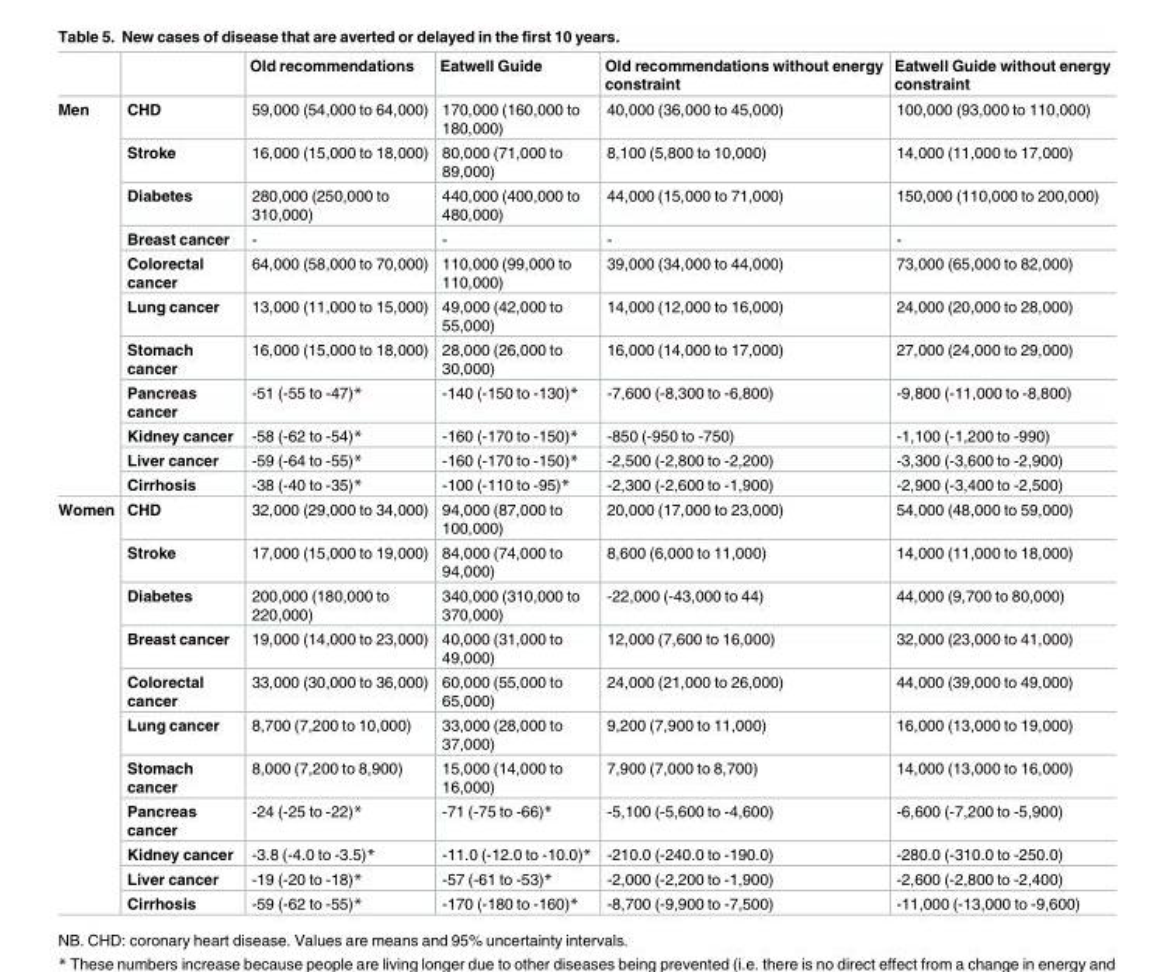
<table><thead><tr><td></td><td></td><td>Old recommendations</td><td>Eatwell Guide</td><td>Old recommendations without energy constraint</td><td>Eatwell Guide without energy constraint</td></tr></thead><tbody><tr><td rowspan="11">Men</td><td>CHD</td><td>59,000 (54,000 to 64,000)</td><td>170,000 (160,000 to 180,000)</td><td>40,000 (36,000 to 45,000)</td><td>100,000 (93,000 to 110,000)</td></tr><tr><td>Stroke</td><td>16,000 (15,000 to 18,000)</td><td>80,000 (71,000 to 89,000)</td><td>8,100 (5,800 to 10,000)</td><td>14,000 (11,000 to 17,000)</td></tr><tr><td>Diabetes</td><td>280,000 (250,000 to 310,000)</td><td>440,000 (400,000 to 480,000)</td><td>44,000 (15,000 to 71,000)</td><td>150,000 (110,000 to 200,000)</td></tr><tr><td>Breast cancer</td><td>-</td><td>-</td><td>-</td><td>-</td></tr><tr><td>Colorectal cancer</td><td>64,000 (58,000 to 70,000)</td><td>110,000 (99,000 to 110,000)</td><td>39,000 (34,000 to 44,000)</td><td>73,000 (65,000 to 82,000)</td></tr><tr><td>Lung cancer</td><td>13,000 (11,000 to 15,000)</td><td>49,000 (42,000 to 55,000)</td><td>14,000 (12,000 to 16,000)</td><td>24,000 (20,000 to 28,000)</td></tr><tr><td>Stomach cancer</td><td>16,000 (15,000 to 18,000)</td><td>28,000 (26,000 to 30,000)</td><td>16,000 (14,000 to 17,000)</td><td>27,000 (24,000 to 29,000)</td></tr><tr><td>Pancreas cancer</td><td>-51 (-55 to -47)*</td><td>-140 (-150 to -130)*</td><td>-7,600 (-8,300 to -6,800)</td><td>-9,800 (-11,000 to -8,800)</td></tr><tr><td>Kidney cancer</td><td>-58 (-62 to -54)*</td><td>-160 (-170 to -150)*</td><td>-850 (-950 to -750)</td><td>-1,100 (-1,200 to -990)</td></tr><tr><td>Liver cancer</td><td>-59 (-64 to -55)*</td><td>-160 (-170 to -150)*</td><td>-2,500 (-2,800 to -2,200)</td><td>-3,300 (-3,600 to -2,900)</td></tr><tr><td>Cirrhosis</td><td>-38 (-40 to -35)*</td><td>-100 (-110 to -95)*</td><td>-2,300 (-2,600 to -1,900)</td><td>-2,900 (-3,400 to -2,500)</td></tr><tr><td rowspan="11">Women</td><td>CHD</td><td>32,000 (29,000 to 34,000)</td><td>94,000 (87,000 to 100,000)</td><td>20,000 (17,000 to 23,000)</td><td>54,000 (48,000 to 59,000)</td></tr><tr><td>Stroke</td><td>17,000 (15,000 to 19,000)</td><td>84,000 (74,000 to 94,000)</td><td>8,600 (6,000 to 11,000)</td><td>14,000 (11,000 to 18,000)</td></tr><tr><td>Diabetes</td><td>200,000 (180,000 to 220,000)</td><td>340,000 (310,000 to 370,000)</td><td>-22,000 (-43,000 to 44)</td><td>44,000 (9,700 to 80,000)</td></tr><tr><td>Breast cancer</td><td>19,000 (14,000 to 23,000)</td><td>40,000 (31,000 to 49,000)</td><td>12,000 (7,600 to 16,000)</td><td>32,000 (23,000 to 41,000)</td></tr><tr><td>Colorectal cancer</td><td>33,000 (30,000 to 36,000)</td><td>60,000 (55,000 to 65,000)</td><td>24,000 (21,000 to 26,000)</td><td>44,000 (39,000 to 49,000)</td></tr><tr><td>Lung cancer</td><td>8,700 (7,200 to 10,000)</td><td>33,000 (28,000 to 37,000)</td><td>9,200 (7,900 to 11,000)</td><td>16,000 (13,000 to 19,000)</td></tr><tr><td>Stomach cancer</td><td>8,000 (7,200 to 8,900)</td><td>15,000 (14,000 to 16,000)</td><td>7,900 (7,000 to 8,700)</td><td>14,000 (13,000 to 16,000)</td></tr><tr><td>Pancreas cancer</td><td>-24 (-25 to -22)*</td><td>-71 (-75 to -66)*</td><td>-5,100 (-5,600 to -4,600)</td><td>-6,600 (-7,200 to -5,900)</td></tr><tr><td>Kidney cancer</td><td>-3.8 (-4.0 to -3.5)*</td><td>-11.0 (-12.0 to -10.0)*</td><td>-210.0 (-240.0 to -190.0)</td><td>-280.0 (-310.0 to -250.0)</td></tr><tr><td>Liver cancer</td><td>-19 (-20 to -18)*</td><td>-57 (-61 to -53)*</td><td>-2,000 (-2,200 to -1,900)</td><td>-2,600 (-2,800 to -2,400)</td></tr><tr><td>Cirrhosis</td><td>-59 (-62 to -55)*</td><td>-170 (-180 to -160)*</td><td>-8,700 (-9,900 to -7,500)</td><td>-11,000 (-13,000 to -9,600)</td></tr></tbody></table>